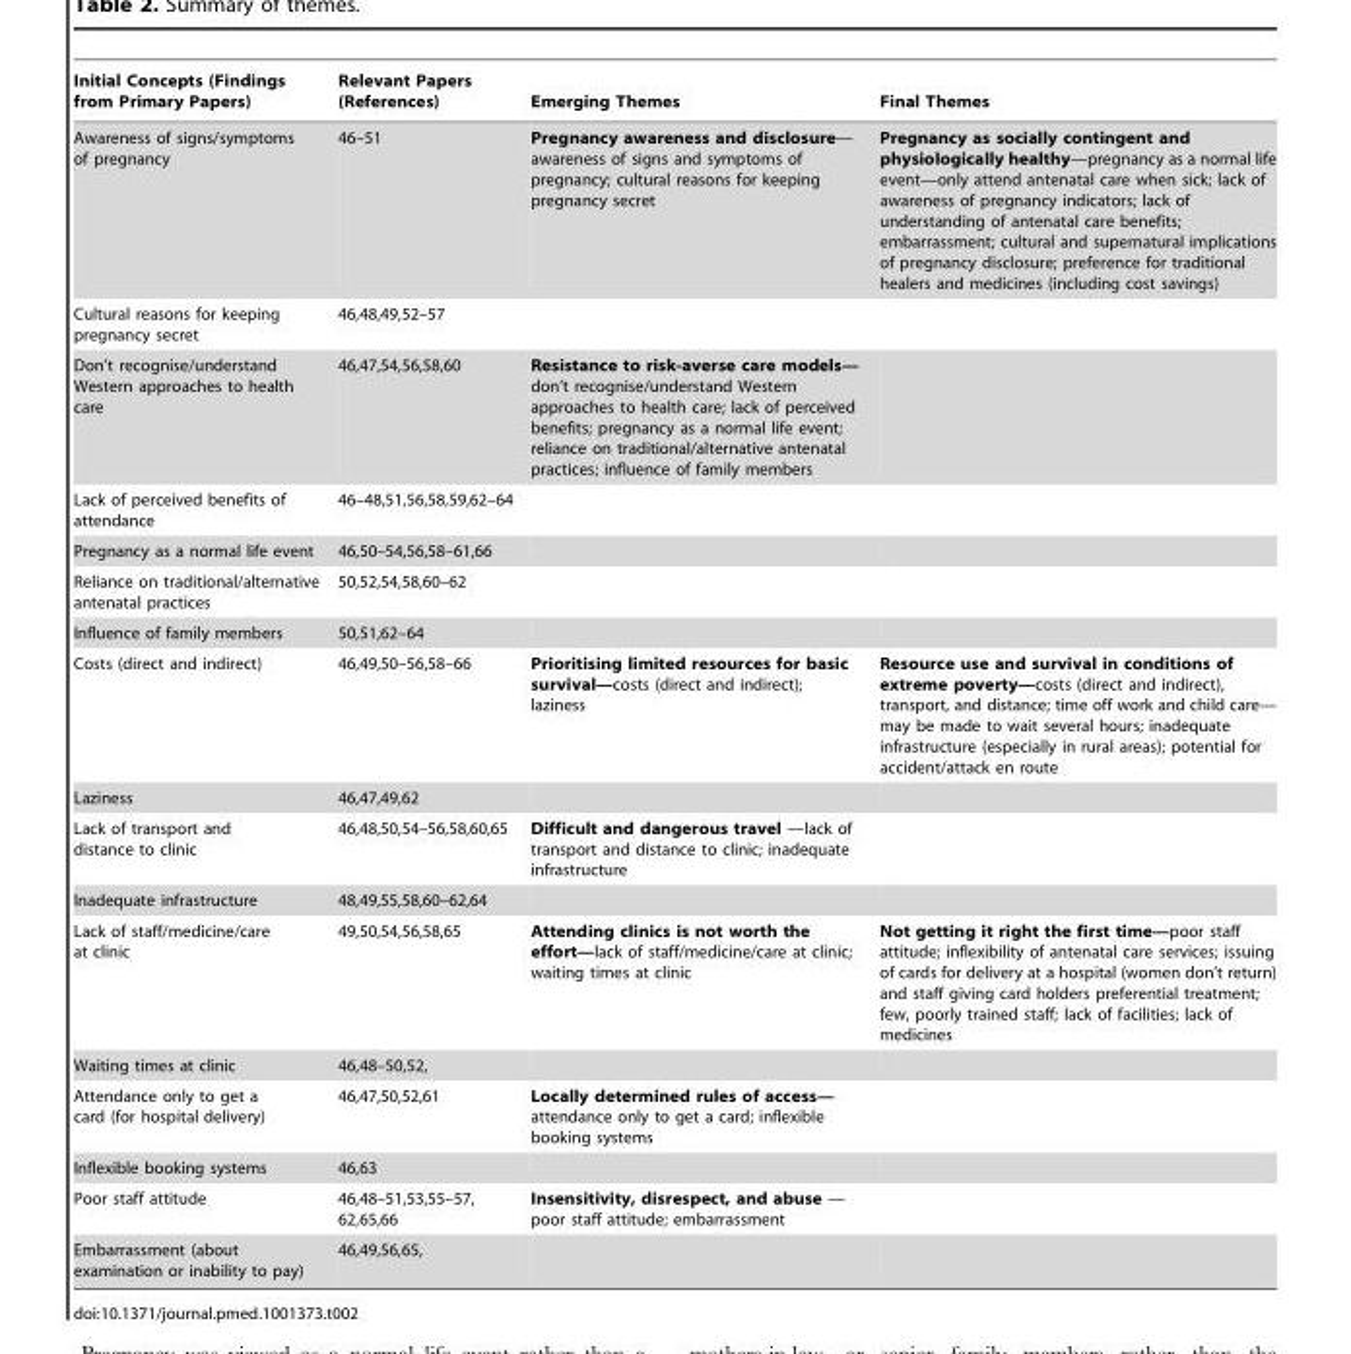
<table><thead><tr><td>Initial Concepts (Findings from Primary Papers)</td><td>Relevant Papers (References)</td><td>Emerging Themes</td><td>Final Themes</td></tr></thead><tbody><tr><td>Awareness of signs/symptoms of pregnancy</td><td>46–51</td><td>Pregnancy awareness and disclosure— awareness of signs and symptoms of pregnancy; cultural reasons for keeping pregnancy secret</td><td>Pregnancy as socially contingent and physiologically healthy—pregnancy as a normal life event—only attend antenatal care when sick; lack of awareness of pregnancy indicators; lack of understanding of antenatal care benefits; embarrassment; cultural and supernatural implications of pregnancy disclosure; preference for traditional healers and medicines (including cost savings)</td></tr><tr><td>Cultural reasons for keeping pregnancy secret</td><td>46,48,49,52–57</td><td></td><td></td></tr><tr><td>Don’t recognise/understand Western approaches to health care</td><td>46,47,54,56,58,60</td><td>Resistance to risk-averse care models— don’t recognise/understand Western approaches to health care; lack of perceived benefits; pregnancy as a normal life event; reliance on traditional/alternative antenatal practices; influence of family members</td><td></td></tr><tr><td>Lack of perceived benefits of attendance</td><td>46–48,51,56,58,59,62–64</td><td></td><td></td></tr><tr><td>Pregnancy as a normal life event</td><td>46,50–54,56,58–61,66</td><td></td><td></td></tr><tr><td>Reliance on traditional/alternative antenatal practices</td><td>50,52,54,58,60–62</td><td></td><td></td></tr><tr><td>Influence of family members</td><td>50,51,62–64</td><td></td><td></td></tr><tr><td>Costs (direct and indirect)</td><td>46,49,50–56,58–66</td><td>Prioritising limited resources for basic survival—costs (direct and indirect); laziness</td><td>Resource use and survival in conditions of extreme poverty—costs (direct and indirect), transport, and distance; time off work and child care— may be made to wait several hours; inadequate infrastructure (especially in rural areas); potential for accident/attack en route</td></tr><tr><td>Laziness</td><td>46,47,49,62</td><td></td><td></td></tr><tr><td>Lack of transport and distance to clinic</td><td>46,48,50,54–56,58,60,65</td><td>Difficult and dangerous travel —lack of transport and distance to clinic; inadequate infrastructure</td><td></td></tr><tr><td>Inadequate infrastructure</td><td>48,49,55,58,60–62,64</td><td></td><td></td></tr><tr><td>Lack of staff/medicine/care at clinic</td><td>49,50,54,56,58,65</td><td>Attending clinics is not worth the effort—lack of staff/medicine/care at clinic; waiting times at clinic</td><td>Not getting it right the first time—poor staff attitude; inflexibility of antenatal care services; issuing of cards for delivery at a hospital (women don’t return) and staff giving card holders preferential treatment; few, poorly trained staff; lack of facilities; lack of medicines</td></tr><tr><td>Waiting times at clinic</td><td>46,48–50,52,</td><td></td><td></td></tr><tr><td>Attendance only to get a card (for hospital delivery)</td><td>46,47,50,52,61</td><td>Locally determined rules of access— attendance only to get a card; inflexible booking systems</td><td></td></tr><tr><td>Inflexible booking systems</td><td>46,63</td><td></td><td></td></tr><tr><td>Poor staff attitude</td><td>46,48–51,53,55–57, 62,65,66</td><td>Insensitivity, disrespect, and abuse — poor staff attitude; embarrassment</td><td></td></tr><tr><td>Embarrassment (about examination or inability to pay)</td><td>46,49,56,65,</td><td></td><td></td></tr></tbody></table>